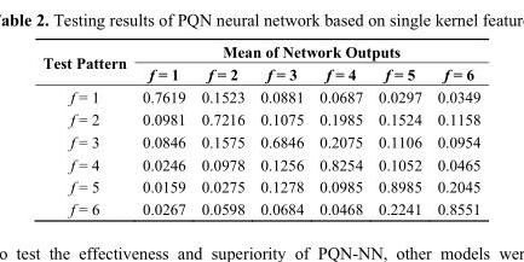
<table><thead><tr><td rowspan="2">Test Pattern</td><td colspan="6">Mean of Network Outputs</td></tr><tr><td>f = 1</td><td>f = 2</td><td>f = 3</td><td>f = 4</td><td>f = 5</td><td>f = 6</td></tr></thead><tbody><tr><td>f = 1</td><td>0.7619</td><td>0.1523</td><td>0.0881</td><td>0.0687</td><td>0.0297</td><td>0.0349</td></tr><tr><td>f = 2</td><td>0.0981</td><td>0.7216</td><td>0.1075</td><td>0.1985</td><td>0.1524</td><td>0.1158</td></tr><tr><td>f = 3</td><td>0.0846</td><td>0.1575</td><td>0.6846</td><td>0.2075</td><td>0.1106</td><td>0.0954</td></tr><tr><td>f = 4</td><td>0.0246</td><td>0.0978</td><td>0.1256</td><td>0.8254</td><td>0.1052</td><td>0.0465</td></tr><tr><td>f = 5</td><td>0.0159</td><td>0.0275</td><td>0.1278</td><td>0.0985</td><td>0.8985</td><td>0.2045</td></tr><tr><td>f = 6</td><td>0.0267</td><td>0.0598</td><td>0.0684</td><td>0.0468</td><td>0.2241</td><td>0.8551</td></tr></tbody></table>